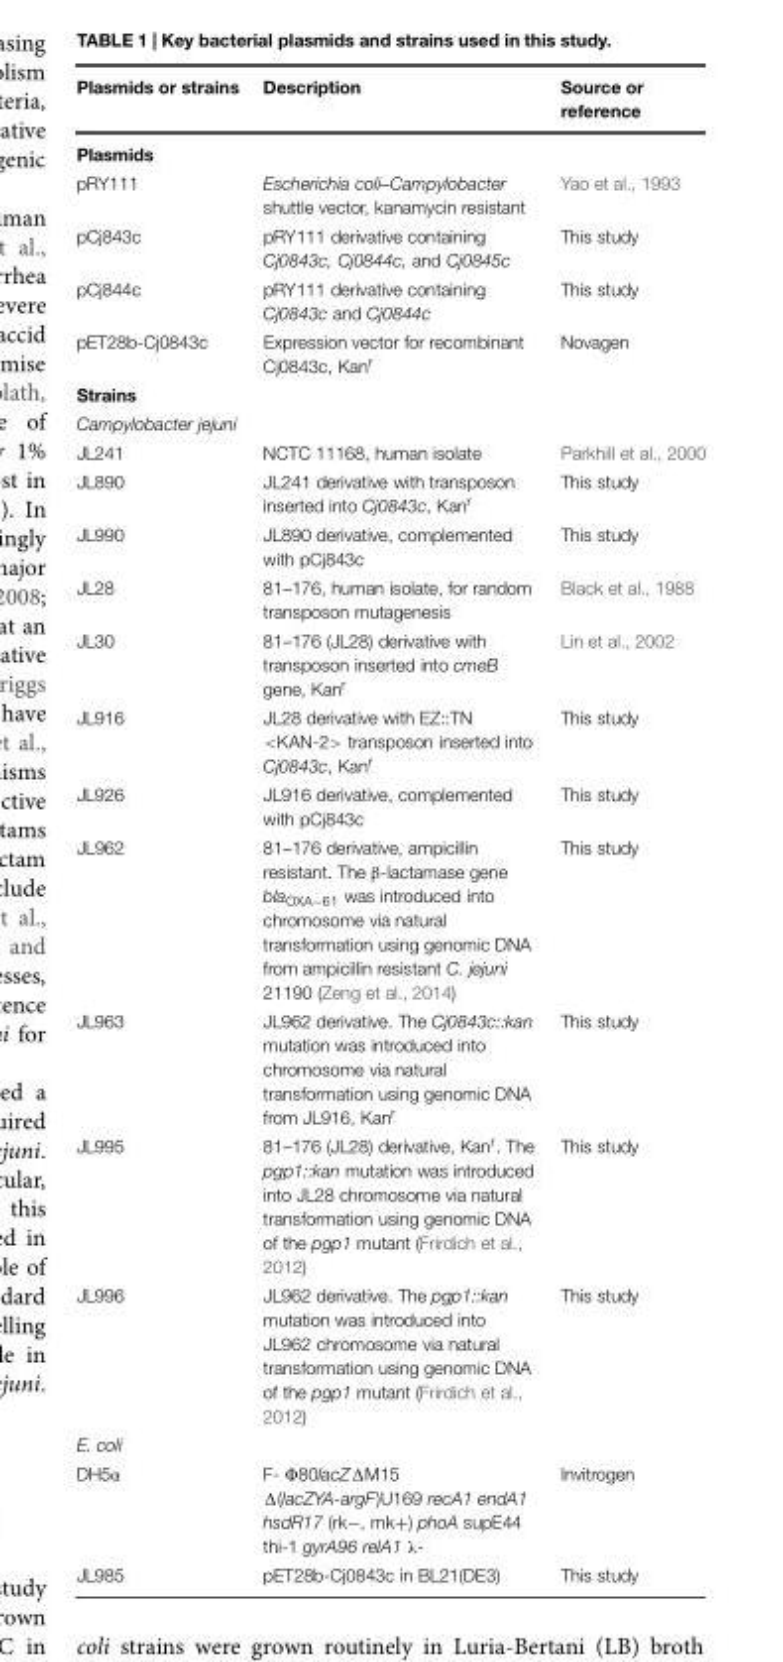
<table><thead><tr><td>Plasmids or strains</td><td>Description</td><td>Source or reference</td></tr></thead><tbody><tr><td colspan="3">Plasmids</td></tr><tr><td>pRY111</td><td>Escherichia coli–Campylobacter shuttle vector, kanamycin resistant</td><td>Yao et al., 1993</td></tr><tr><td>pCj843c</td><td>pRY111 derivative containing Cj0843c, Cj0844c, and Cj0845c</td><td>This study</td></tr><tr><td>pCj844c</td><td>pRY111 derivative containing Cj0843c and Cj0844c</td><td>This study</td></tr><tr><td>pET28b-Cj0843c</td><td>Expression vector for recombinant Cj0843c, Kan<sup>r</sup></td><td>Novagen</td></tr><tr><td colspan="3">Strains</td></tr><tr><td colspan="3">Campylobacter jejuni</td></tr><tr><td>JL241</td><td>NCTC 11168, human isolate</td><td>Parkhill et al., 2000</td></tr><tr><td>JL890</td><td>JL241 derivative with transposon inserted into Cj0843c, Kan<sup>r</sup></td><td>This study</td></tr><tr><td>JL990</td><td>JL890 derivative, complemented with pCj843c</td><td>This study</td></tr><tr><td>JL28</td><td>81–176, human isolate, for random transposon mutagenesis</td><td>Black et al., 1988</td></tr><tr><td>JL30</td><td>81–176 (JL28) derivative with transposon inserted into cmeB gene, Kan<sup>r</sup></td><td>Lin et al., 2002</td></tr><tr><td>JL916</td><td>JL28 derivative with EZ::TN &lt;KAN-2&gt; transposon inserted into Cj0843c, Kan<sup>r</sup></td><td>This study</td></tr><tr><td>JL926</td><td>JL916 derivative, complemented with pCj843c</td><td>This study</td></tr><tr><td>JL962</td><td>81–176 derivative, ampicillin resistant. The β-lactamase gene bla<sub>OXA−61</sub> was introduced into chromosome via natural transformation using genomic DNA from ampicillin resistant C. jejuni 21190 (Zeng et al., 2014)</td><td>This study</td></tr><tr><td>JL963</td><td>JL962 derivative. The Cj0843c::kan mutation was introduced into chromosome via natural transformation using genomic DNA from JL916, Kan<sup>r</sup></td><td>This study</td></tr><tr><td>JL995</td><td>81–176 (JL28) derivative, Kan<sup>r</sup>. The pgp1::kan mutation was introduced into JL28 chromosome via natural transformation using genomic DNA of the pgp1 mutant (Frirdich et al., 2012)</td><td>This study</td></tr><tr><td>JL996</td><td>JL962 derivative. The pgp1::kan mutation was introduced into JL962 chromosome via natural transformation using genomic DNA of the pgp1 mutant (Frirdich et al., 2012)</td><td>This study</td></tr><tr><td colspan="3">E. coli</td></tr><tr><td>DH5α</td><td>F- Φ80lacZΔM15 Δ(lacZYA-argF)U169 recA1 endA1 hsdR17 (rk−, mk+) phoA supE44 thi-1 gyrA96 relA1 λ-</td><td>Invitrogen</td></tr><tr><td>JL985</td><td>pET28b-Cj0843c in BL21(DE3)</td><td>This study</td></tr></tbody></table>